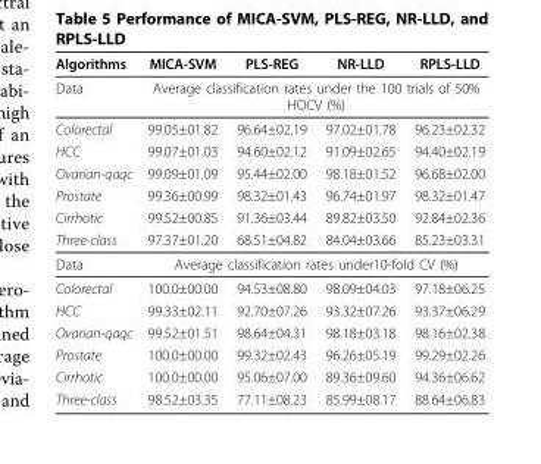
<table><thead><tr><td>Algorithms</td><td>MICA-SVM</td><td>PLS-REG</td><td>NR-LLD</td><td>RPLS-LLD</td></tr></thead><tbody><tr><td>Data</td><td colspan="4">Average classification rates under the 100 trials of 50% HOCV (%)</td></tr><tr><td>Colorectal</td><td>99.05±01.82</td><td>96.64±02.19</td><td>97.02±01.78</td><td>96.23±02.32</td></tr><tr><td>HCC</td><td>99.07±01.03</td><td>94.60±02.12</td><td>91.09±02.65</td><td>94.40±02.19</td></tr><tr><td>Ovarian-qaqc</td><td>99.09±01.09</td><td>95.44±02.00</td><td>98.18±01.52</td><td>96.68±02.00</td></tr><tr><td>Prostate</td><td>99.36±00.99</td><td>98.32±01.43</td><td>96.74±01.97</td><td>98.32±01.47</td></tr><tr><td>Cirrhotic</td><td>99.52±00.85</td><td>91.36±03.44</td><td>89.82±03.50</td><td>92.84±02.36</td></tr><tr><td>Three-class</td><td>97.37±01.20</td><td>68.51±04.82</td><td>84.04±03.66</td><td>85.23±03.31</td></tr><tr><td>Data</td><td colspan="4">Average classification rates under10-fold CV (%)</td></tr><tr><td>Colorectal</td><td>100.0±00.00</td><td>94.53±08.80</td><td>98.09±04.03</td><td>97.18±06.25</td></tr><tr><td>HCC</td><td>99.33±02.11</td><td>92.70±07.26</td><td>93.32±07.26</td><td>93.37±06.29</td></tr><tr><td>Ovarian-qaqc</td><td>99.52±01.51</td><td>98.64±04.31</td><td>98.18±03.18</td><td>98.16±02.38</td></tr><tr><td>Prostate</td><td>100.0±00.00</td><td>99.32±02.43</td><td>96.26±05.19</td><td>99.29±02.26</td></tr><tr><td>Cirrhotic</td><td>100.0±00.00</td><td>95.06±07.00</td><td>89.36±09.60</td><td>94.36±06.62</td></tr><tr><td>Three-class</td><td>98.52±03.35</td><td>77.11±08.23</td><td>85.99±08.17</td><td>88.64±06.83</td></tr></tbody></table>